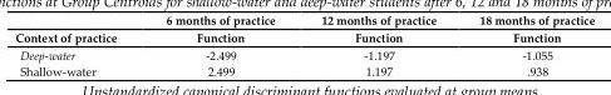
<table><thead><tr><td rowspan="2">Context of practice</td><td rowspan="2">6 months of practice Function</td><td rowspan="2">12 months of practice Function</td><td rowspan="2">18 months of practice Function</td></tr><tr></tr></thead><tbody><tr><td>Deep-water</td><td>-2.499</td><td>-1.197</td><td>-1.055</td></tr><tr><td>Shallow-water</td><td>2.499</td><td>1.197</td><td>.938</td></tr></tbody></table>